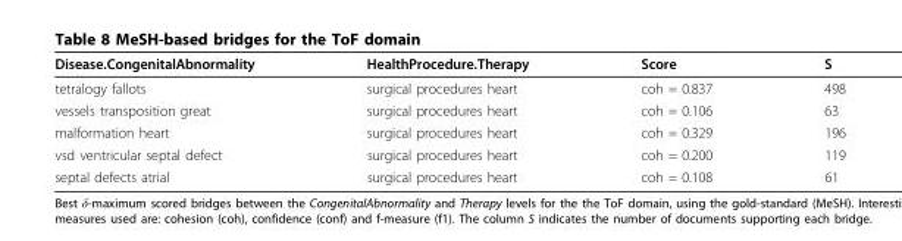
<table><thead><tr><td>Disease.CongenitalAbnormality</td><td>HealthProcedure.Therapy</td><td>Score</td><td>S</td></tr></thead><tbody><tr><td>tetralogy fallots</td><td>surgical procedures heart</td><td>coh = 0.837</td><td>498</td></tr><tr><td>vessels transposition great</td><td>surgical procedures heart</td><td>coh = 0.106</td><td>63</td></tr><tr><td>malformation heart</td><td>surgical procedures heart</td><td>coh = 0.329</td><td>196</td></tr><tr><td>vsd ventricular septal defect</td><td>surgical procedures heart</td><td>coh = 0.200</td><td>119</td></tr><tr><td>septal defects atrial</td><td>surgical procedures heart</td><td>coh = 0.108</td><td>61</td></tr></tbody></table>